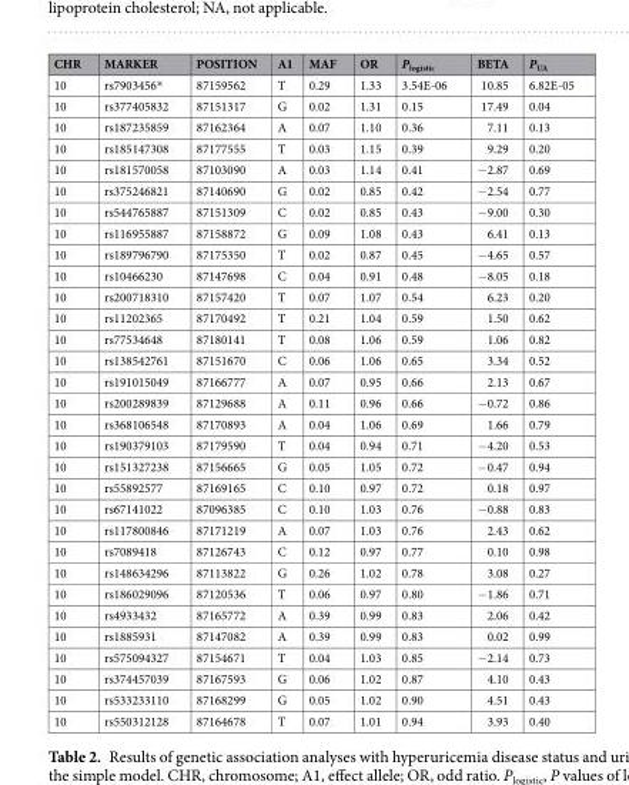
<table><thead><tr><td>CHR</td><td>MARKER</td><td>POSITION</td><td>A1</td><td>MAF</td><td>OR</td><td>P<sub>logistic</sub></td><td>BETA</td><td>P<sub>UA</sub></td></tr></thead><tbody><tr><td>10</td><td>rs7903456*</td><td>87159562</td><td>T</td><td>0.29</td><td>1.33</td><td>3.54E-06</td><td>10.85</td><td>6.82E-05</td></tr><tr><td>10</td><td>rs377405832</td><td>87151317</td><td>G</td><td>0.02</td><td>1.31</td><td>0.15</td><td>17.49</td><td>0.04</td></tr><tr><td>10</td><td>rs187235859</td><td>87162364</td><td>A</td><td>0.07</td><td>1.10</td><td>0.36</td><td>7.11</td><td>0.13</td></tr><tr><td>10</td><td>rs185147308</td><td>87177555</td><td>T</td><td>0.03</td><td>1.15</td><td>0.39</td><td>9.29</td><td>0.20</td></tr><tr><td>10</td><td>rs181570058</td><td>87103090</td><td>A</td><td>0.03</td><td>1.14</td><td>0.41</td><td>−2.87</td><td>0.69</td></tr><tr><td>10</td><td>rs375246821</td><td>87140690</td><td>G</td><td>0.02</td><td>0.85</td><td>0.42</td><td>−2.54</td><td>0.77</td></tr><tr><td>10</td><td>rs544765887</td><td>87151309</td><td>C</td><td>0.02</td><td>0.85</td><td>0.43</td><td>−9.00</td><td>0.30</td></tr><tr><td>10</td><td>rs116955887</td><td>87158872</td><td>G</td><td>0.09</td><td>1.08</td><td>0.43</td><td>6.41</td><td>0.13</td></tr><tr><td>10</td><td>rs189796790</td><td>87175350</td><td>T</td><td>0.02</td><td>0.87</td><td>0.45</td><td>−4.65</td><td>0.57</td></tr><tr><td>10</td><td>rs10466230</td><td>87147698</td><td>C</td><td>0.04</td><td>0.91</td><td>0.48</td><td>−8.05</td><td>0.18</td></tr><tr><td>10</td><td>rs200718310</td><td>87157420</td><td>T</td><td>0.07</td><td>1.07</td><td>0.54</td><td>6.23</td><td>0.20</td></tr><tr><td>10</td><td>rs11202365</td><td>87170492</td><td>T</td><td>0.21</td><td>1.04</td><td>0.59</td><td>1.50</td><td>0.62</td></tr><tr><td>10</td><td>rs77534648</td><td>87180141</td><td>T</td><td>0.08</td><td>1.06</td><td>0.59</td><td>1.06</td><td>0.82</td></tr><tr><td>10</td><td>rs138542761</td><td>87151670</td><td>C</td><td>0.06</td><td>1.06</td><td>0.65</td><td>3.34</td><td>0.52</td></tr><tr><td>10</td><td>rs191015049</td><td>87166777</td><td>A</td><td>0.07</td><td>0.95</td><td>0.66</td><td>2.13</td><td>0.67</td></tr><tr><td>10</td><td>rs200289839</td><td>87129688</td><td>A</td><td>0.11</td><td>0.96</td><td>0.66</td><td>−0.72</td><td>0.86</td></tr><tr><td>10</td><td>rs368106548</td><td>87170893</td><td>A</td><td>0.04</td><td>1.06</td><td>0.69</td><td>1.66</td><td>0.79</td></tr><tr><td>10</td><td>rs190379103</td><td>87179590</td><td>T</td><td>0.04</td><td>0.94</td><td>0.71</td><td>−4.20</td><td>0.53</td></tr><tr><td>10</td><td>rs151327238</td><td>87156665</td><td>G</td><td>0.05</td><td>1.05</td><td>0.72</td><td>−0.47</td><td>0.94</td></tr><tr><td>10</td><td>rs55892577</td><td>87169165</td><td>C</td><td>0.10</td><td>0.97</td><td>0.72</td><td>0.18</td><td>0.97</td></tr><tr><td>10</td><td>rs67141022</td><td>87096385</td><td>C</td><td>0.10</td><td>1.03</td><td>0.76</td><td>−0.88</td><td>0.83</td></tr><tr><td>10</td><td>rs117800846</td><td>87171219</td><td>A</td><td>0.07</td><td>1.03</td><td>0.76</td><td>2.43</td><td>0.62</td></tr><tr><td>10</td><td>rs7089418</td><td>87126743</td><td>C</td><td>0.12</td><td>0.97</td><td>0.77</td><td>0.10</td><td>0.98</td></tr><tr><td>10</td><td>rs148634296</td><td>87113822</td><td>G</td><td>0.26</td><td>1.02</td><td>0.78</td><td>3.08</td><td>0.27</td></tr><tr><td>10</td><td>rs186029096</td><td>87120536</td><td>T</td><td>0.06</td><td>0.97</td><td>0.80</td><td>−1.86</td><td>0.71</td></tr><tr><td>10</td><td>rs4933432</td><td>87165772</td><td>A</td><td>0.39</td><td>0.99</td><td>0.83</td><td>2.06</td><td>0.42</td></tr><tr><td>10</td><td>rs1885931</td><td>87147082</td><td>A</td><td>0.39</td><td>0.99</td><td>0.83</td><td>0.02</td><td>0.99</td></tr><tr><td>10</td><td>rs575094327</td><td>87154671</td><td>T</td><td>0.04</td><td>1.03</td><td>0.85</td><td>−2.14</td><td>0.73</td></tr><tr><td>10</td><td>rs374457039</td><td>87167593</td><td>G</td><td>0.06</td><td>1.02</td><td>0.87</td><td>4.10</td><td>0.43</td></tr><tr><td>10</td><td>rs533233110</td><td>87168299</td><td>G</td><td>0.05</td><td>1.02</td><td>0.90</td><td>4.51</td><td>0.43</td></tr><tr><td>10</td><td>rs550312128</td><td>87164678</td><td>T</td><td>0.07</td><td>1.01</td><td>0.94</td><td>3.93</td><td>0.40</td></tr></tbody></table>